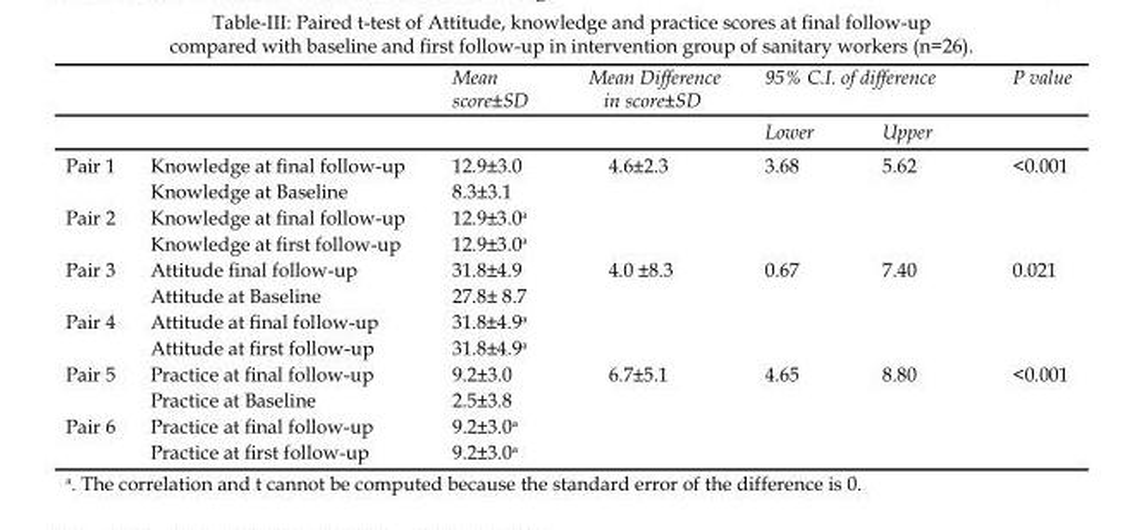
<table><thead><tr><td rowspan="2"></td><td rowspan="2"></td><td rowspan="2">Mean score±SD</td><td rowspan="2">Mean Difference in score±SD</td><td colspan="2">95% C.I. of difference</td><td rowspan="2">P value</td></tr><tr><td>Lower</td><td>Upper</td></tr></thead><tbody><tr><td rowspan="2">Pair 1</td><td>Knowledge at final follow-up</td><td>12.9±3.0</td><td>4.6±2.3</td><td>3.68</td><td>5.62</td><td>&lt;0.001</td></tr><tr><td>Knowledge at Baseline</td><td>8.3±3.1</td><td></td><td></td><td></td><td></td></tr><tr><td rowspan="2">Pair 2</td><td>Knowledge at final follow-up</td><td>12.9±3.0<sup>a</sup></td><td></td><td></td><td></td><td></td></tr><tr><td>Knowledge at first follow-up</td><td>12.9±3.0<sup>a</sup></td><td></td><td></td><td></td><td></td></tr><tr><td rowspan="2">Pair 3</td><td>Attitude final follow-up</td><td>31.8±4.9</td><td>4.0 ±8.3</td><td>0.67</td><td>7.40</td><td>0.021</td></tr><tr><td>Attitude at Baseline</td><td>27.8± 8.7</td><td></td><td></td><td></td><td></td></tr><tr><td rowspan="2">Pair 4</td><td>Attitude at final follow-up</td><td>31.8±4.9<sup>a</sup></td><td></td><td></td><td></td><td></td></tr><tr><td>Attitude at first follow-up</td><td>31.8±4.9<sup>a</sup></td><td></td><td></td><td></td><td></td></tr><tr><td rowspan="2">Pair 5</td><td>Practice at final follow-up</td><td>9.2±3.0</td><td>6.7±5.1</td><td>4.65</td><td>8.80</td><td>&lt;0.001</td></tr><tr><td>Practice at Baseline</td><td>2.5±3.8</td><td></td><td></td><td></td><td></td></tr><tr><td rowspan="2">Pair 6</td><td>Practice at final follow-up</td><td>9.2±3.0<sup>a</sup></td><td></td><td></td><td></td><td></td></tr><tr><td>Practice at first follow-up</td><td>9.2±3.0<sup>a</sup></td><td></td><td></td><td></td><td></td></tr></tbody></table>